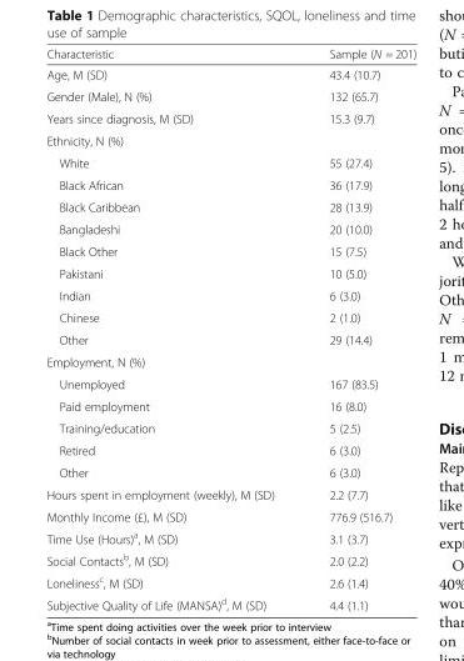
<table><thead><tr><td>Characteristic</td><td>Sample (N = 201)</td></tr></thead><tbody><tr><td>Age, M (SD)</td><td>43.4 (10.7)</td></tr><tr><td>Gender (Male), N (%)</td><td>132 (65.7)</td></tr><tr><td>Years since diagnosis, M (SD)</td><td>15.3 (9.7)</td></tr><tr><td colspan="2">Ethnicity, N (%)</td></tr><tr><td>White</td><td>55 (27.4)</td></tr><tr><td>Black African</td><td>36 (17.9)</td></tr><tr><td>Black Caribbean</td><td>28 (13.9)</td></tr><tr><td>Bangladeshi</td><td>20 (10.0)</td></tr><tr><td>Black Other</td><td>15 (7.5)</td></tr><tr><td>Pakistani</td><td>10 (5.0)</td></tr><tr><td>Indian</td><td>6 (3.0)</td></tr><tr><td>Chinese</td><td>2 (1.0)</td></tr><tr><td>Other</td><td>29 (14.4)</td></tr><tr><td colspan="2">Employment, N (%)</td></tr><tr><td>Unemployed</td><td>167 (83.5)</td></tr><tr><td>Paid employment</td><td>16 (8.0)</td></tr><tr><td>Training/education</td><td>5 (2.5)</td></tr><tr><td>Retired</td><td>6 (3.0)</td></tr><tr><td>Other</td><td>6 (3.0)</td></tr><tr><td>Hours spent in employment (weekly), M (SD)</td><td>2.2 (7.7)</td></tr><tr><td>Monthly Income (£), M (SD)</td><td>776.9 (516.7)</td></tr><tr><td>Time Use (Hours)<sup>a</sup>, M (SD)</td><td>3.1 (3.7)</td></tr><tr><td>Social Contacts<sup>b</sup>, M (SD)</td><td>2.0 (2.2)</td></tr><tr><td>Loneliness<sup>c</sup>, M (SD)</td><td>2.6 (1.4)</td></tr><tr><td>Subjective Quality of Life (MANSA)<sup>d</sup>, M (SD)</td><td>4.4 (1.1)</td></tr></tbody></table>